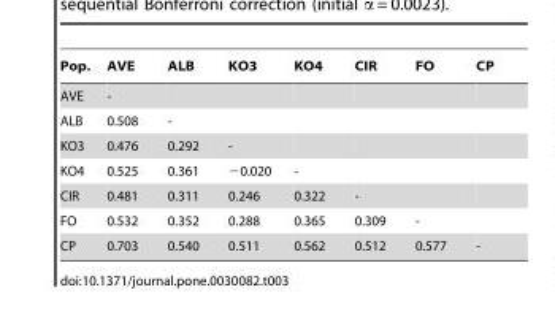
<table><thead><tr><td>Pop.</td><td>AVE</td><td>ALB</td><td>KO3</td><td>KO4</td><td>CIR</td><td>FO</td><td>CP</td></tr></thead><tbody><tr><td>AVE</td><td>-</td><td></td><td></td><td></td><td></td><td></td><td></td></tr><tr><td>ALB</td><td>0.508</td><td>-</td><td></td><td></td><td></td><td></td><td></td></tr><tr><td>KO3</td><td>0.476</td><td>0.292</td><td>-</td><td></td><td></td><td></td><td></td></tr><tr><td>KO4</td><td>0.525</td><td>0.361</td><td>−0.020</td><td>-</td><td></td><td></td><td></td></tr><tr><td>CIR</td><td>0.481</td><td>0.311</td><td>0.246</td><td>0.322</td><td>-</td><td></td><td></td></tr><tr><td>FO</td><td>0.532</td><td>0.352</td><td>0.288</td><td>0.365</td><td>0.309</td><td>-</td><td></td></tr><tr><td>CP</td><td>0.703</td><td>0.540</td><td>0.511</td><td>0.562</td><td>0.512</td><td>0.577</td><td>-</td></tr></tbody></table>